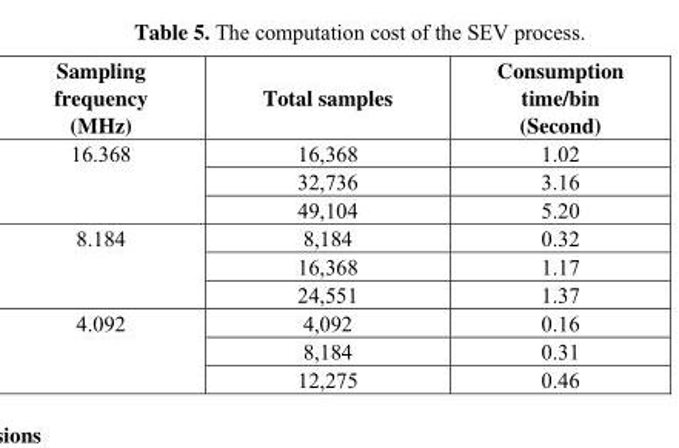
<table><thead><tr><td>Sampling frequency (MHz)</td><td>Total samples</td><td>Consumption time/bin (Second)</td></tr></thead><tbody><tr><td rowspan="3">16.368</td><td>16,368</td><td>1.02</td></tr><tr><td>32,736</td><td>3.16</td></tr><tr><td>49,104</td><td>5.20</td></tr><tr><td rowspan="3">8.184</td><td>8,184</td><td>0.32</td></tr><tr><td>16,368</td><td>1.17</td></tr><tr><td>24,551</td><td>1.37</td></tr><tr><td rowspan="3">4.092</td><td>4,092</td><td>0.16</td></tr><tr><td>8,184</td><td>0.31</td></tr><tr><td>12,275</td><td>0.46</td></tr></tbody></table>